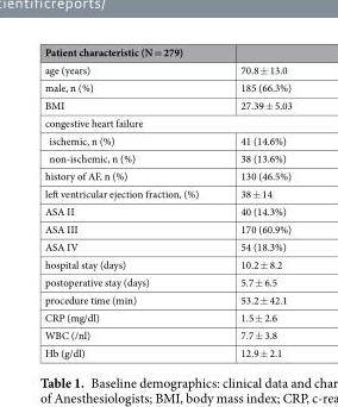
<table><thead><tr><td>Patient characteristic (N = 279)</td><td></td></tr></thead><tbody><tr><td>age (years)</td><td>70.8 ± 13.0</td></tr><tr><td>male, n (%)</td><td>185 (66.3%)</td></tr><tr><td>BMI</td><td>27.39 ± 5.03</td></tr><tr><td colspan="2">congestive heart failure</td></tr><tr><td>ischemic, n (%)</td><td>41 (14.6%)</td></tr><tr><td>non-ischemic, n (%)</td><td>38 (13.6%)</td></tr><tr><td>history of AF, n (%)</td><td>130 (46.5%)</td></tr><tr><td>left ventricular ejection fraction, (%)</td><td>38 ± 14</td></tr><tr><td>ASA II</td><td>40 (14.3%)</td></tr><tr><td>ASA III</td><td>170 (60.9%)</td></tr><tr><td>ASA IV</td><td>54 (18.3%)</td></tr><tr><td>hospital stay (days)</td><td>10.2 ± 8.2</td></tr><tr><td>postoperative stay (days)</td><td>5.7 ± 6.5</td></tr><tr><td>procedure time (min)</td><td>53.2 ± 42.1</td></tr><tr><td>CRP (mg/dl)</td><td>1.5 ± 2.6</td></tr><tr><td>WBC (/nl)</td><td>7.7 ± 3.8</td></tr><tr><td>Hb (g/dl)</td><td>12.9 ± 2.1</td></tr></tbody></table>